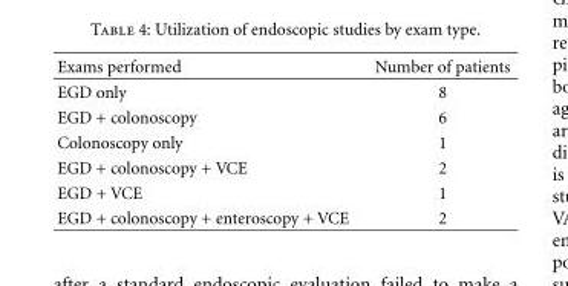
<table><thead><tr><td>Exams performed</td><td>Number of patients</td></tr></thead><tbody><tr><td>EGD only</td><td>8</td></tr><tr><td>EGD + colonoscopy</td><td>6</td></tr><tr><td>Colonoscopy only</td><td>1</td></tr><tr><td>EGD + colonoscopy + VCE</td><td>2</td></tr><tr><td>EGD + VCE</td><td>1</td></tr><tr><td>EGD + colonoscopy + enteroscopy + VCE</td><td>2</td></tr></tbody></table>